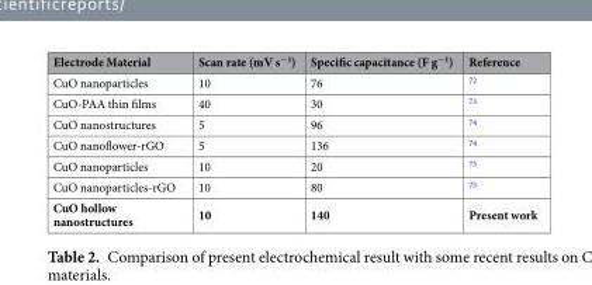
<table><thead><tr><td>Electrode Material</td><td>Scan rate (mV s<sup>−1</sup>)</td><td>Specific capacitance (F g<sup>−1</sup>)</td><td>Reference</td></tr></thead><tbody><tr><td>CuO nanoparticles</td><td>10</td><td>76</td><td><sup>72</sup></td></tr><tr><td>CuO-PAA thin films</td><td>40</td><td>30</td><td><sup>73</sup></td></tr><tr><td>CuO nanostructures</td><td>5</td><td>96</td><td><sup>74</sup></td></tr><tr><td>CuO nanoflower-rGO</td><td>5</td><td>136</td><td><sup>74</sup></td></tr><tr><td>CuO nanoparticles</td><td>10</td><td>20</td><td><sup>75</sup></td></tr><tr><td>CuO nanoparticles-rGO</td><td>10</td><td>80</td><td><sup>75</sup></td></tr><tr><td>CuO hollow nanostructures</td><td>10</td><td>140</td><td>Present work</td></tr></tbody></table>